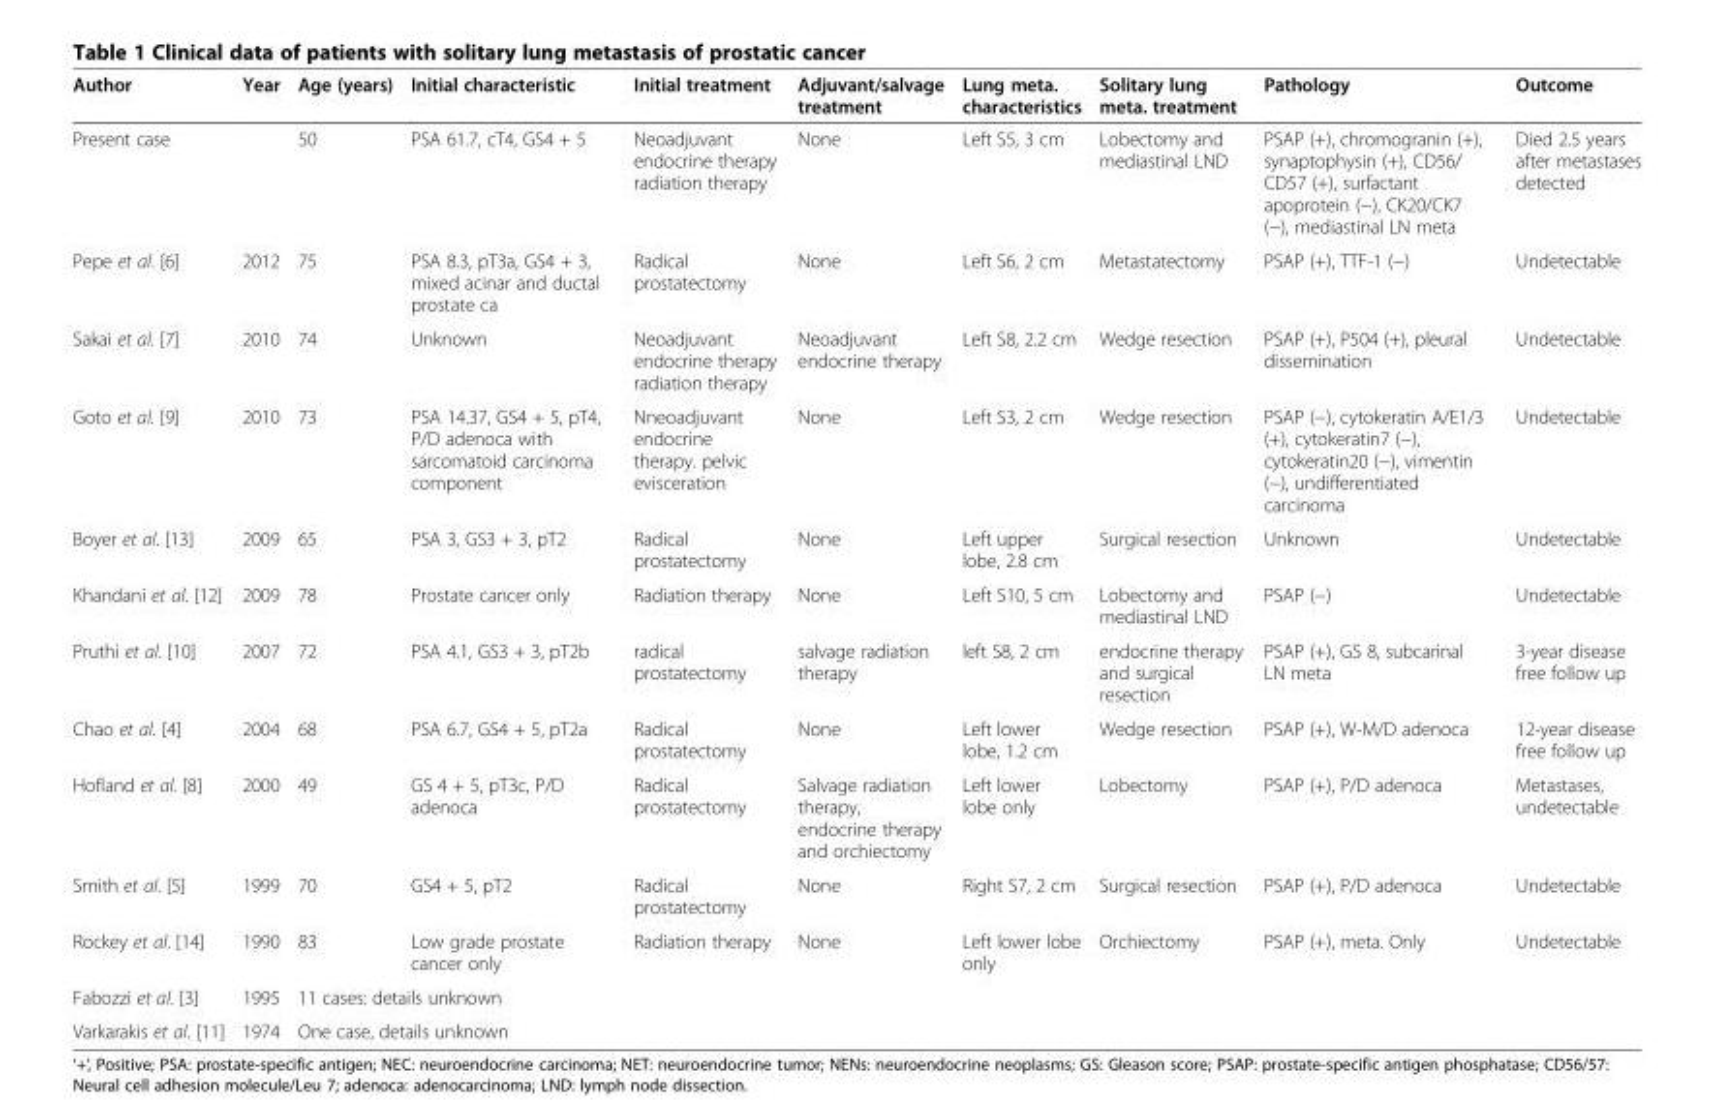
<table><thead><tr><td>Author</td><td>Year</td><td>Age (years)</td><td>Initial characteristic</td><td>Initial treatment</td><td>Adjuvant/salvage treatment</td><td>Lung meta. characteristics</td><td>Solitary lung meta. treatment</td><td>Pathology</td><td>Outcome</td></tr></thead><tbody><tr><td>Present case</td><td></td><td>50</td><td>PSA 61.7, cT4, GS4 + 5</td><td>Neoadjuvant endocrine therapy radiation therapy</td><td>None</td><td>Left S5, 3 cm</td><td>Lobectomy and mediastinal LND</td><td>PSAP (+), chromogranin (+), synaptophysin (+), CD56/ CD57 (+), surfactant apoprotein (−), CK20/CK7 (−), mediastinal LN meta</td><td>Died 2.5 years after metastases detected</td></tr><tr><td>Pepe et al. [6]</td><td>2012</td><td>75</td><td>PSA 8.3, pT3a, GS4 + 3, mixed acinar and ductal prostate ca</td><td>Radical prostatectomy</td><td>None</td><td>Left S6, 2 cm</td><td>Metastatectomy</td><td>PSAP (+), TTF-1 (−)</td><td>Undetectable</td></tr><tr><td>Sakai et al. [7]</td><td>2010</td><td>74</td><td>Unknown</td><td>Neoadjuvant endocrine therapy radiation therapy</td><td>Neoadjuvant endocrine therapy</td><td>Left S8, 2.2 cm</td><td>Wedge resection</td><td>PSAP (+), P504 (+), pleural dissemination</td><td>Undetectable</td></tr><tr><td>Goto et al. [9]</td><td>2010</td><td>73</td><td>PSA 14.37, GS4 + 5, pT4, P/D adenoca with sarcomatoid carcinoma component</td><td>Nneoadjuvant endocrine therapy. pelvic evisceration</td><td>None</td><td>Left S3, 2 cm</td><td>Wedge resection</td><td>PSAP (−), cytokeratin A/E1/3 (+), cytokeratin7 (−), cytokeratin20 (−), vimentin (−), undifferentiated carcinoma</td><td>Undetectable</td></tr><tr><td>Boyer et al. [13]</td><td>2009</td><td>65</td><td>PSA 3, GS3 + 3, pT2</td><td>Radical prostatectomy</td><td>None</td><td>Left upper lobe, 2.8 cm</td><td>Surgical resection</td><td>Unknown</td><td>Undetectable</td></tr><tr><td>Khandani et al. [12]</td><td>2009</td><td>78</td><td>Prostate cancer only</td><td>Radiation therapy</td><td>None</td><td>Left S10, 5 cm</td><td>Lobectomy and mediastinal LND</td><td>PSAP (−)</td><td>Undetectable</td></tr><tr><td>Pruthi et al. [10]</td><td>2007</td><td>72</td><td>PSA 4.1, GS3 + 3, pT2b</td><td>radical prostatectomy</td><td>salvage radiation therapy</td><td>left S8, 2 cm</td><td>endocrine therapy and surgical resection</td><td>PSAP (+), GS 8, subcarinal LN meta</td><td>3-year disease free follow up</td></tr><tr><td>Chao et al. [4]</td><td>2004</td><td>68</td><td>PSA 6.7, GS4 + 5, pT2a</td><td>Radical prostatectomy</td><td>None</td><td>Left lower lobe, 1.2 cm</td><td>Wedge resection</td><td>PSAP (+), W-M/D adenoca</td><td>12-year disease free follow up</td></tr><tr><td>Hofland et al. [8]</td><td>2000</td><td>49</td><td>GS 4 + 5, pT3c, P/D adenoca</td><td>Radical prostatectomy</td><td>Salvage radiation therapy, endocrine therapy and orchiectomy</td><td>Left lower lobe only</td><td>Lobectomy</td><td>PSAP (+), P/D adenoca</td><td>Metastases, undetectable</td></tr><tr><td>Smith et al. [5]</td><td>1999</td><td>70</td><td>GS4 + 5, pT2</td><td>Radical prostatectomy</td><td>None</td><td>Right S7, 2 cm</td><td>Surgical resection</td><td>PSAP (+), P/D adenoca</td><td>Undetectable</td></tr><tr><td>Rockey et al. [14]</td><td>1990</td><td>83</td><td>Low grade prostate cancer only</td><td>Radiation therapy</td><td>None</td><td>Left lower lobe only</td><td>Orchiectomy</td><td>PSAP (+), meta. Only</td><td>Undetectable</td></tr><tr><td>Fabozzi et al. [3]</td><td>1995</td><td colspan="8">11 cases: details unknown</td></tr><tr><td>Varkarakis et al. [11]</td><td>1974</td><td colspan="8">One case, details unknown</td></tr></tbody></table>